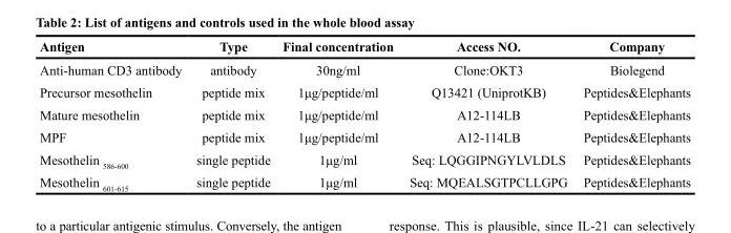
<table><thead><tr><td>Antigen</td><td>Type</td><td>Final concentration</td><td>Access NO.</td><td>Company</td></tr></thead><tbody><tr><td>Anti-human CD3 antibody</td><td>antibody</td><td>30ng/ml</td><td>Clone:OKT3</td><td>Biolegend</td></tr><tr><td>Precursor mesothelin</td><td>peptide mix</td><td>1μg/peptide/ml</td><td>Q13421 (UniprotKB)</td><td>Peptides&amp;Elephants</td></tr><tr><td>Mature mesothelin</td><td>peptide mix</td><td>1μg/peptide/ml</td><td>A12-114LB</td><td>Peptides&amp;Elephants</td></tr><tr><td>MPF</td><td>peptide mix</td><td>1μg/peptide/ml</td><td>A12-114LB</td><td>Peptides&amp;Elephants</td></tr><tr><td>Mesothelin <sub>586-600</sub></td><td>single peptide</td><td>1μg/ml</td><td>Seq: LQGGIPNGYLVLDLS</td><td>Peptides&amp;Elephants</td></tr><tr><td>Mesothelin <sub>601-615</sub></td><td>single peptide</td><td>1μg/ml</td><td>Seq: MQEALSGTPCLLGPG</td><td>Peptides&amp;Elephants</td></tr></tbody></table>